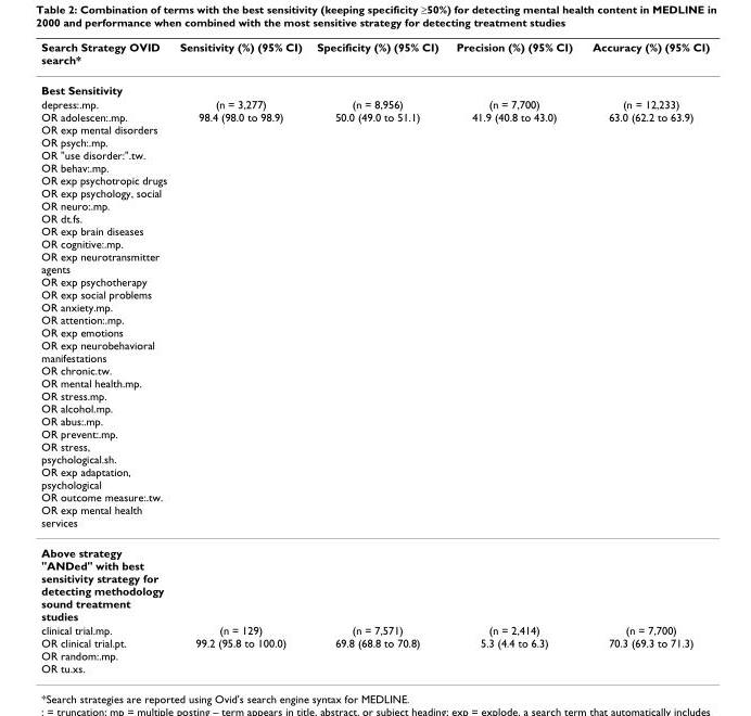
<table><thead><tr><td>Search Strategy OVID search*</td><td>Sensitivity (%) (95% CI)</td><td>Specificity (%) (95% CI)</td><td>Precision (%) (95% CI)</td><td>Accuracy (%) (95% CI)</td></tr></thead><tbody><tr><td colspan="5">Best Sensitivity</td></tr><tr><td>depress:.mp. OR adolescen:.mp. OR exp mental disorders OR psych:.mp. OR &quot;use disorder:&quot;.tw. OR behav:.mp. OR exp psychotropic drugs OR exp psychology, social OR neuro:.mp. OR dt.fs. OR exp brain diseases OR cognitive:.mp. OR exp neurotransmitter agents OR exp psychotherapy OR exp social problems OR anxiety.mp. OR attention:.mp. OR exp emotions OR exp neurobehavioral manifestations OR chronic.tw. OR mental health.mp. OR stress.mp. OR alcohol.mp. OR abus:.mp. OR prevent:.mp. OR stress, psychological.sh. OR exp adaptation, psychological OR outcome measure:.tw. OR exp mental health services</td><td>(n = 3,277) 98.4 (98.0 to 98.9)</td><td>(n = 8,956) 50.0 (49.0 to 51.1)</td><td>(n = 7,700) 41.9 (40.8 to 43.0)</td><td>(n = 12,233) 63.0 (62.2 to 63.9)</td></tr><tr><td colspan="5">Above strategy &quot;ANDed&quot; with best sensitivity strategy for detecting methodology sound treatment studies</td></tr><tr><td>clinical trial.mp. OR clinical trial.pt. OR random:.mp. OR tu.xs.</td><td>(n = 129) 99.2 (95.8 to 100.0)</td><td>(n = 7,571) 69.8 (68.8 to 70.8)</td><td>(n = 2,414) 5.3 (4.4 to 6.3)</td><td>(n = 7,700) 70.3 (69.3 to 71.3)</td></tr></tbody></table>